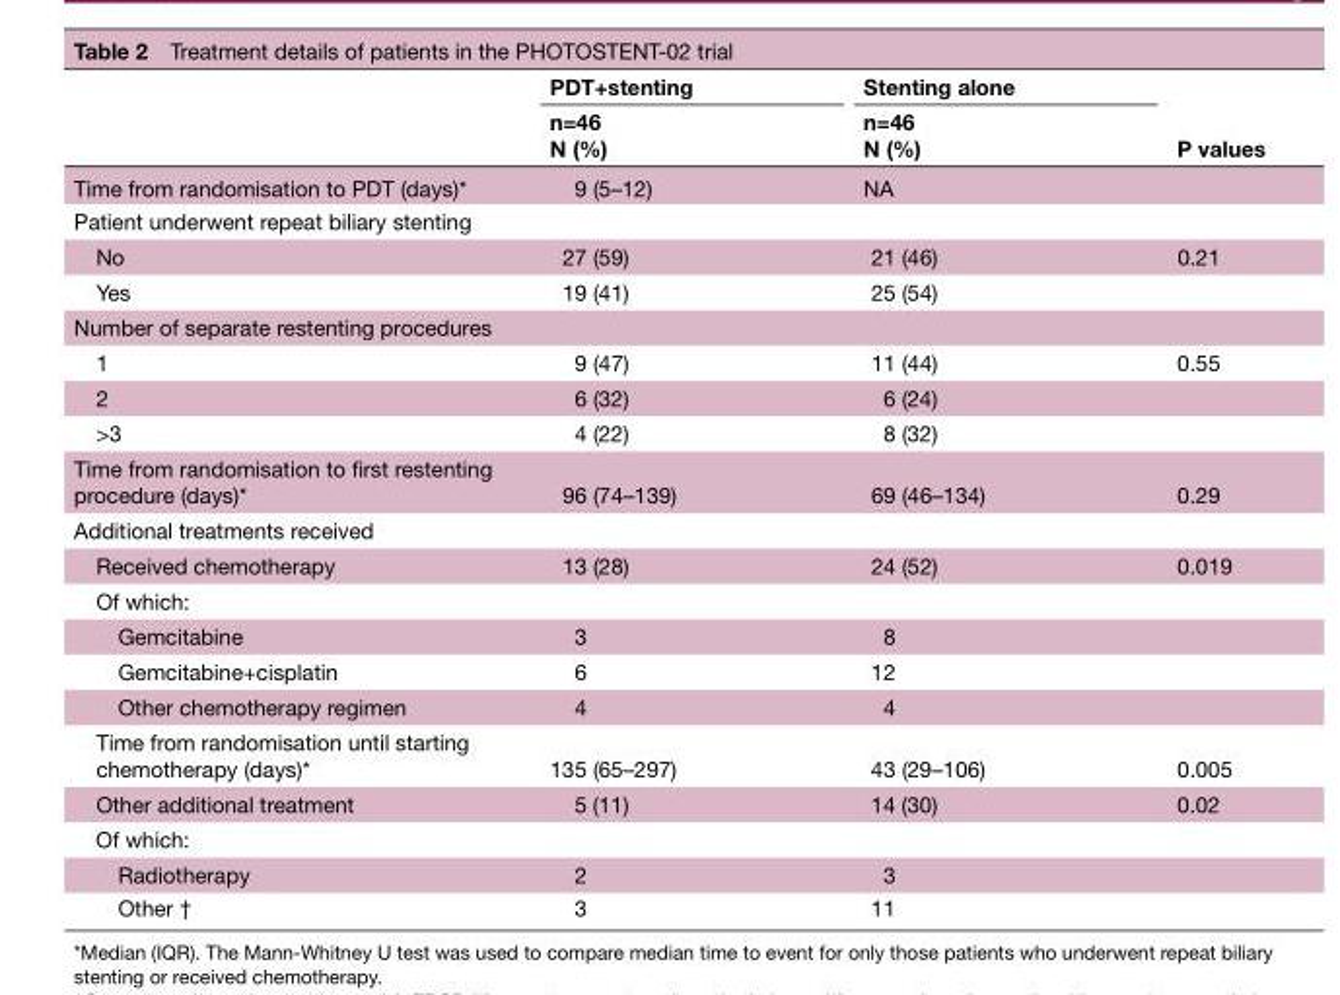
<table><thead><tr><td rowspan="2"></td><td rowspan="2">PDT+stenting n=46 N (%)</td><td rowspan="2">Stenting alone n=46 N (%)</td><td rowspan="2">P values</td></tr><tr></tr></thead><tbody><tr><td>Time from randomisation to PDT (days)*</td><td>9 (5–12)</td><td>NA</td><td></td></tr><tr><td colspan="4">Patient underwent repeat biliary stenting</td></tr><tr><td>No</td><td>27 (59)</td><td>21 (46)</td><td>0.21</td></tr><tr><td>Yes</td><td>19 (41)</td><td>25 (54)</td><td></td></tr><tr><td colspan="4">Number of separate restenting procedures</td></tr><tr><td>1</td><td>9 (47)</td><td>11 (44)</td><td>0.55</td></tr><tr><td>2</td><td>6 (32)</td><td>6 (24)</td><td></td></tr><tr><td>&gt;3</td><td>4 (22)</td><td>8 (32)</td><td></td></tr><tr><td>Time from randomisation to first restenting procedure (days)*</td><td>96 (74–139)</td><td>69 (46–134)</td><td>0.29</td></tr><tr><td colspan="4">Additional treatments received</td></tr><tr><td>Received chemotherapy</td><td>13 (28)</td><td>24 (52)</td><td>0.019</td></tr><tr><td colspan="4">Of which:</td></tr><tr><td>Gemcitabine</td><td>3</td><td>8</td><td></td></tr><tr><td>Gemcitabine+cisplatin</td><td>6</td><td>12</td><td></td></tr><tr><td>Other chemotherapy regimen</td><td>4</td><td>4</td><td></td></tr><tr><td>Time from randomisation until starting chemotherapy (days)*</td><td>135 (65–297)</td><td>43 (29–106)</td><td>0.005</td></tr><tr><td>Other additional treatment</td><td>5 (11)</td><td>14 (30)</td><td>0.02</td></tr><tr><td colspan="4">Of which:</td></tr><tr><td>Radiotherapy</td><td>2</td><td>3</td><td></td></tr><tr><td>Other †</td><td>3</td><td>11</td><td></td></tr></tbody></table>